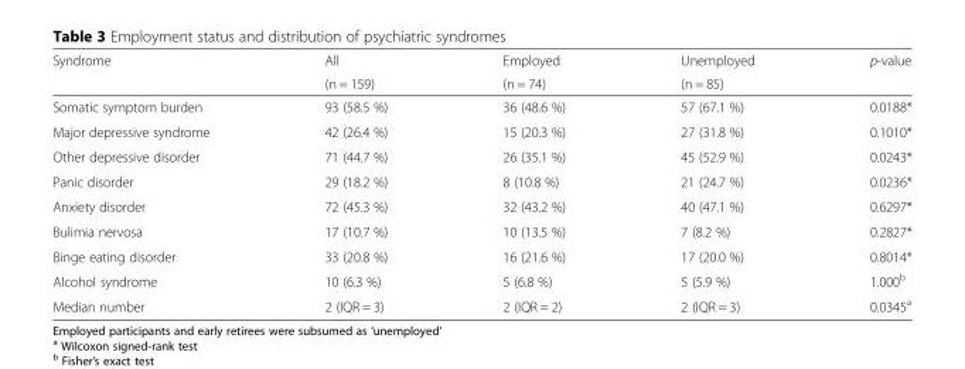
<table><thead><tr><td rowspan="2">Syndrome</td><td rowspan="2">All (n = 159)</td><td rowspan="2">Employed (n = 74)</td><td rowspan="2">Unemployed (n = 85)</td><td rowspan="2">p-value</td></tr><tr></tr></thead><tbody><tr><td>Somatic symptom burden</td><td>93 (58.5 %)</td><td>36 (48.6 %)</td><td>57 (67.1 %)</td><td>0.0188*</td></tr><tr><td>Major depressive syndrome</td><td>42 (26.4 %)</td><td>15 (20.3 %)</td><td>27 (31.8 %)</td><td>0.1010*</td></tr><tr><td>Other depressive disorder</td><td>71 (44.7 %)</td><td>26 (35.1 %)</td><td>45 (52.9 %)</td><td>0.0243*</td></tr><tr><td>Panic disorder</td><td>29 (18.2 %)</td><td>8 (10.8 %)</td><td>21 (24.7 %)</td><td>0.0236*</td></tr><tr><td>Anxiety disorder</td><td>72 (45.3 %)</td><td>32 (43.2 %)</td><td>40 (47.1 %)</td><td>0.6297*</td></tr><tr><td>Bulimia nervosa</td><td>17 (10.7 %)</td><td>10 (13.5 %)</td><td>7 (8.2 %)</td><td>0.2827*</td></tr><tr><td>Binge eating disorder</td><td>33 (20.8 %)</td><td>16 (21.6 %)</td><td>17 (20.0 %)</td><td>0.8014*</td></tr><tr><td>Alcohol syndrome</td><td>10 (6.3 %)</td><td>5 (6.8 %)</td><td>5 (5.9 %)</td><td>1.000<sup>b</sup></td></tr><tr><td>Median number</td><td>2 (IQR = 3)</td><td>2 (IQR = 2)</td><td>2 (IQR = 3)</td><td>0.0345<sup>a</sup></td></tr></tbody></table>